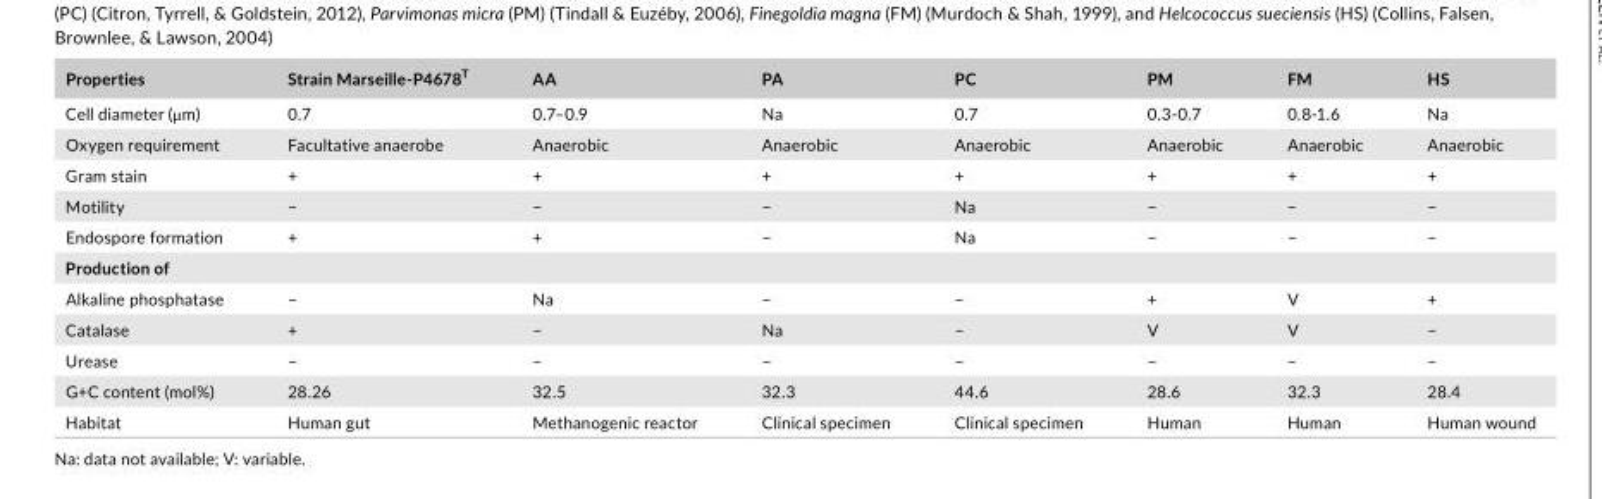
<table><thead><tr><td>Properties</td><td>Strain Marseille- P4678<sup>T</sup></td><td>AA</td><td>PA</td><td>PC</td><td>PM</td><td>FM</td><td>HS</td></tr></thead><tbody><tr><td>Cell diameter (μm)</td><td>0.7</td><td>0.7–0.9</td><td>Na</td><td>0.7</td><td>0.3- 0.7</td><td>0.8- 1.6</td><td>Na</td></tr><tr><td>Oxygen requirement</td><td>Facultative anaerobe</td><td>Anaerobic</td><td>Anaerobic</td><td>Anaerobic</td><td>Anaerobic</td><td>Anaerobic</td><td>Anaerobic</td></tr><tr><td>Gram stain</td><td>+</td><td>+</td><td>+</td><td>+</td><td>+</td><td>+</td><td>+</td></tr><tr><td>Motility</td><td>−</td><td>−</td><td>−</td><td>Na</td><td>−</td><td>−</td><td>−</td></tr><tr><td>Endospore formation</td><td>+</td><td>+</td><td>−</td><td>Na</td><td>−</td><td>−</td><td>−</td></tr><tr><td colspan="8">Production of</td></tr><tr><td>Alkaline phosphatase</td><td>−</td><td>Na</td><td>−</td><td>−</td><td>+</td><td>V</td><td>+</td></tr><tr><td>Catalase</td><td>+</td><td>−</td><td>Na</td><td>−</td><td>V</td><td>V</td><td>−</td></tr><tr><td>Urease</td><td>−</td><td>−</td><td>−</td><td>−</td><td>−</td><td>−</td><td>−</td></tr><tr><td>G+C content (mol%)</td><td>28.26</td><td>32.5</td><td>32.3</td><td>44.6</td><td>28.6</td><td>32.3</td><td>28.4</td></tr><tr><td>Habitat</td><td>Human gut</td><td>Methanogenic reactor</td><td>Clinical specimen</td><td>Clinical specimen</td><td>Human</td><td>Human</td><td>Human wound</td></tr></tbody></table>